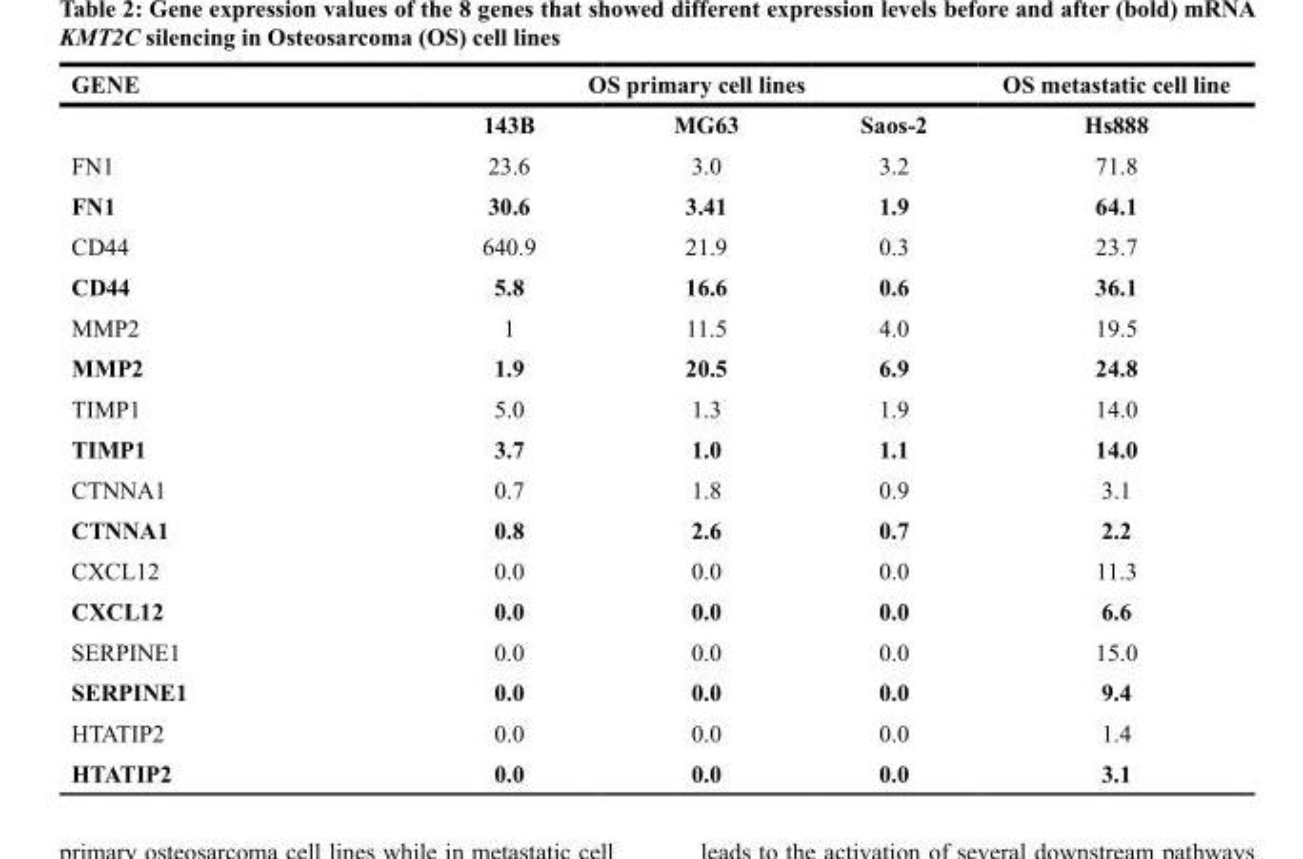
<table><thead><tr><td rowspan="2">GENE</td><td colspan="3">OS primary cell lines</td><td rowspan="2">OS metastatic cell line Hs888</td></tr><tr><td>143B</td><td>MG63</td><td>Saos-2</td></tr></thead><tbody><tr><td>FN1</td><td>23.6</td><td>3.0</td><td>3.2</td><td>71.8</td></tr><tr><td>FN1</td><td>30.6</td><td>3.41</td><td>1.9</td><td>64.1</td></tr><tr><td>CD44</td><td>640.9</td><td>21.9</td><td>0.3</td><td>23.7</td></tr><tr><td>CD44</td><td>5.8</td><td>16.6</td><td>0.6</td><td>36.1</td></tr><tr><td>MMP2</td><td>1</td><td>11.5</td><td>4.0</td><td>19.5</td></tr><tr><td>MMP2</td><td>1.9</td><td>20.5</td><td>6.9</td><td>24.8</td></tr><tr><td>TIMP1</td><td>5.0</td><td>1.3</td><td>1.9</td><td>14.0</td></tr><tr><td>TIMP1</td><td>3.7</td><td>1.0</td><td>1.1</td><td>14.0</td></tr><tr><td>CTNNA1</td><td>0.7</td><td>1.8</td><td>0.9</td><td>3.1</td></tr><tr><td>CTNNA1</td><td>0.8</td><td>2.6</td><td>0.7</td><td>2.2</td></tr><tr><td>CXCL12</td><td>0.0</td><td>0.0</td><td>0.0</td><td>11.3</td></tr><tr><td>CXCL12</td><td>0.0</td><td>0.0</td><td>0.0</td><td>6.6</td></tr><tr><td>SERPINE1</td><td>0.0</td><td>0.0</td><td>0.0</td><td>15.0</td></tr><tr><td>SERPINE1</td><td>0.0</td><td>0.0</td><td>0.0</td><td>9.4</td></tr><tr><td>HTATIP2</td><td>0.0</td><td>0.0</td><td>0.0</td><td>1.4</td></tr><tr><td>HTATIP2</td><td>0.0</td><td>0.0</td><td>0.0</td><td>3.1</td></tr></tbody></table>